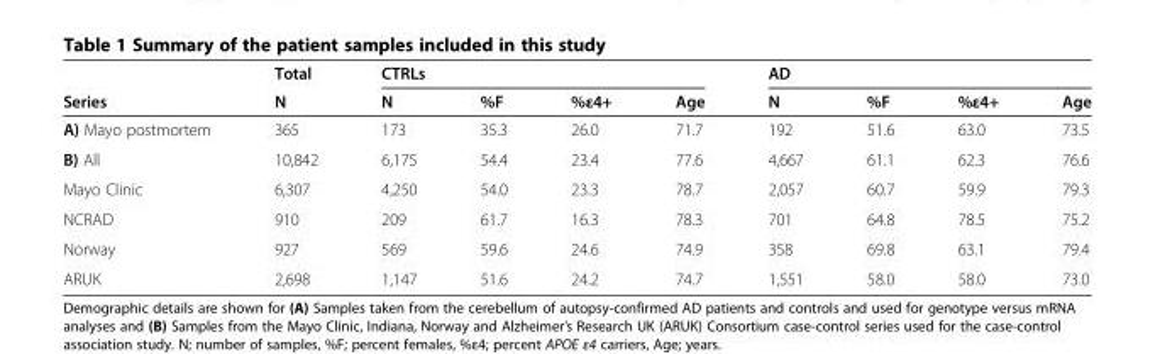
<table><thead><tr><td rowspan="2">Series</td><td rowspan="2">Total N</td><td colspan="4">CTRLs</td><td colspan="4">AD</td></tr><tr><td>N</td><td>%F</td><td>%ε4+</td><td>Age</td><td>N</td><td>%F</td><td>%ε4+</td><td>Age</td></tr></thead><tbody><tr><td>A) Mayo postmortem</td><td>365</td><td>173</td><td>35.3</td><td>26.0</td><td>71.7</td><td>192</td><td>51.6</td><td>63.0</td><td>73.5</td></tr><tr><td>B) All</td><td>10,842</td><td>6,175</td><td>54.4</td><td>23.4</td><td>77.6</td><td>4,667</td><td>61.1</td><td>62.3</td><td>76.6</td></tr><tr><td>Mayo Clinic</td><td>6,307</td><td>4,250</td><td>54.0</td><td>23.3</td><td>78.7</td><td>2,057</td><td>60.7</td><td>59.9</td><td>79.3</td></tr><tr><td>NCRAD</td><td>910</td><td>209</td><td>61.7</td><td>16.3</td><td>78.3</td><td>701</td><td>64.8</td><td>78.5</td><td>75.2</td></tr><tr><td>Norway</td><td>927</td><td>569</td><td>59.6</td><td>24.6</td><td>74.9</td><td>358</td><td>69.8</td><td>63.1</td><td>79.4</td></tr><tr><td>ARUK</td><td>2,698</td><td>1,147</td><td>51.6</td><td>24.2</td><td>74.7</td><td>1,551</td><td>58.0</td><td>58.0</td><td>73.0</td></tr></tbody></table>